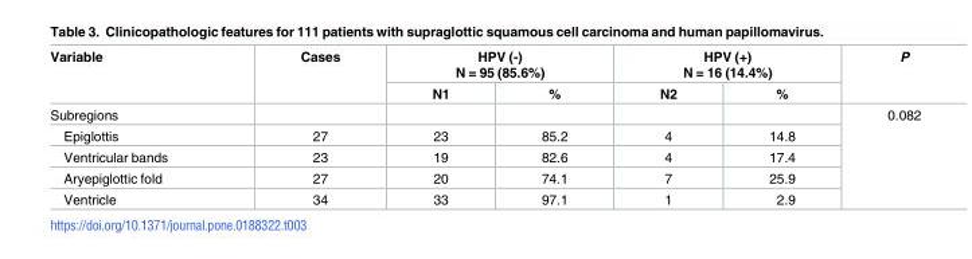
<table><thead><tr><td rowspan="2">Variable</td><td rowspan="2">Cases</td><td colspan="2">HPV (-) N = 95 (85.6%)</td><td colspan="2">HPV (+) N = 16 (14.4%)</td><td rowspan="2">P</td></tr><tr><td>N1</td><td>%</td><td>N2</td><td>%</td></tr></thead><tbody><tr><td colspan="6">Subregions</td><td rowspan="5">0.082</td></tr><tr><td>Epiglottis</td><td>27</td><td>23</td><td>85.2</td><td>4</td><td>14.8</td></tr><tr><td>Ventricular bands</td><td>23</td><td>19</td><td>82.6</td><td>4</td><td>17.4</td></tr><tr><td>Aryepiglottic fold</td><td>27</td><td>20</td><td>74.1</td><td>7</td><td>25.9</td></tr><tr><td>Ventricle</td><td>34</td><td>33</td><td>97.1</td><td>1</td><td>2.9</td></tr></tbody></table>